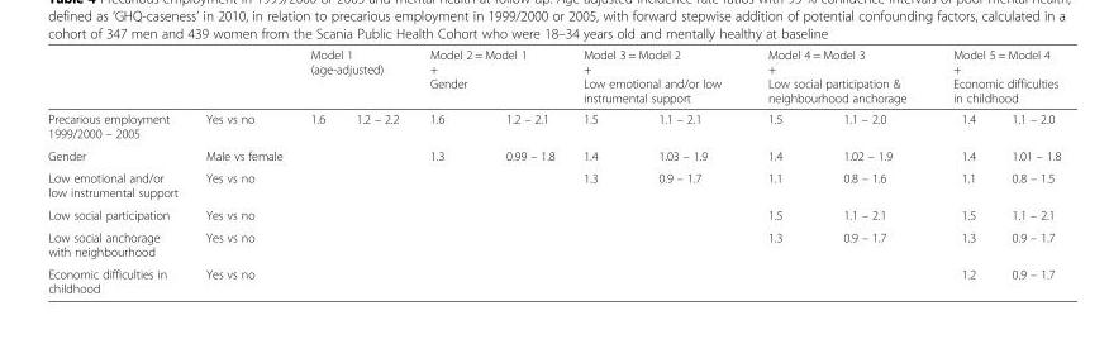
<table><thead><tr><td rowspan="4">Precarious employment 1999/2000 – 2005</td><td rowspan="4">Yes vs no</td><td rowspan="3" colspan="2">Model 1 (age-adjusted)</td><td rowspan="3" colspan="2">Model 2 = Model 1 + Gender</td><td rowspan="3" colspan="2">Model 3 = Model 2 + Low emotional and/or low instrumental support</td><td rowspan="3" colspan="2">Model 4 = Model 3 + Low social participation &amp; neighbourhood anchorage</td><td rowspan="3" colspan="2">Model 5 = Model 4 + Economic difficulties in childhood</td></tr><tr></tr><tr></tr><tr><td>1.6</td><td>1.2 – 2.2</td><td>1.6</td><td>1.2 – 2.1</td><td>1.5</td><td>1.1 – 2.1</td><td>1.5</td><td>1.1 – 2.0</td><td>1.4</td><td>1.1 – 2.0</td></tr></thead><tbody><tr><td>Gender</td><td>Male vs female</td><td></td><td></td><td>1.3</td><td>0.99 – 1.8</td><td>1.4</td><td>1.03 – 1.9</td><td>1.4</td><td>1.02 – 1.9</td><td>1.4</td><td>1.01 – 1.8</td></tr><tr><td>Low emotional and/or low instrumental support</td><td>Yes vs no</td><td></td><td></td><td></td><td></td><td>1.3</td><td>0.9 – 1.7</td><td>1.1</td><td>0.8 – 1.6</td><td>1.1</td><td>0.8 – 1.5</td></tr><tr><td>Low social participation</td><td>Yes vs no</td><td></td><td></td><td></td><td></td><td></td><td></td><td>1.5</td><td>1.1 – 2.1</td><td>1.5</td><td>1.1 – 2.1</td></tr><tr><td>Low social anchorage with neighbourhood</td><td>Yes vs no</td><td></td><td></td><td></td><td></td><td></td><td></td><td>1.3</td><td>0.9 – 1.7</td><td>1.3</td><td>0.9 – 1.7</td></tr><tr><td>Economic difficulties in childhood</td><td>Yes vs no</td><td></td><td></td><td></td><td></td><td></td><td></td><td></td><td></td><td>1.2</td><td>0.9 – 1.7</td></tr></tbody></table>